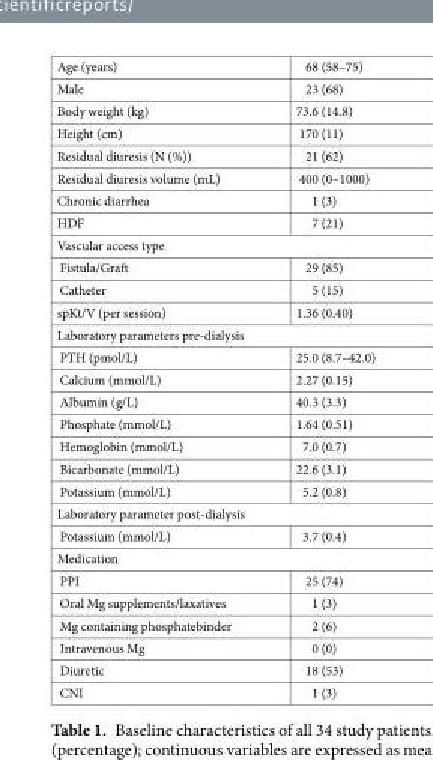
<table><tbody><tr><td>Age (years)</td><td>68 (58–75)</td></tr><tr><td>Male</td><td>23 (68)</td></tr><tr><td>Body weight (kg)</td><td>73.6 (14.8)</td></tr><tr><td>Height (cm)</td><td>170 (11)</td></tr><tr><td>Residual diuresis (N (%))</td><td>21 (62)</td></tr><tr><td>Residual diuresis volume (mL)</td><td>400 (0–1000)</td></tr><tr><td>Chronic diarrhea</td><td>1 (3)</td></tr><tr><td>HDF</td><td>7 (21)</td></tr><tr><td colspan="2">Vascular access type</td></tr><tr><td>Fistula/Graft</td><td>29 (85)</td></tr><tr><td>Catheter</td><td>5 (15)</td></tr><tr><td>spKt/V (per session)</td><td>1.36 (0.40)</td></tr><tr><td colspan="2">Laboratory parameters pre-dialysis</td></tr><tr><td>PTH (pmol/L)</td><td>25.0 (8.7–42.0)</td></tr><tr><td>Calcium (mmol/L)</td><td>2.27 (0.15)</td></tr><tr><td>Albumin (g/L)</td><td>40.3 (3.3)</td></tr><tr><td>Phosphate (mmol/L)</td><td>1.64 (0.51)</td></tr><tr><td>Hemoglobin (mmol/L)</td><td>7.0 (0.7)</td></tr><tr><td>Bicarbonate (mmol/L)</td><td>22.6 (3.1)</td></tr><tr><td>Potassium (mmol/L)</td><td>5.2 (0.8)</td></tr><tr><td colspan="2">Laboratory parameter post-dialysis</td></tr><tr><td>Potassium (mmol/L)</td><td>3.7 (0.4)</td></tr><tr><td colspan="2">Medication</td></tr><tr><td>PPI</td><td>25 (74)</td></tr><tr><td>Oral Mg supplements/laxatives</td><td>1 (3)</td></tr><tr><td>Mg containing phosphatebinder</td><td>2 (6)</td></tr><tr><td>Intravenous Mg</td><td>0 (0)</td></tr><tr><td>Diuretic</td><td>18 (53)</td></tr><tr><td>CNI</td><td>1 (3)</td></tr></tbody></table>